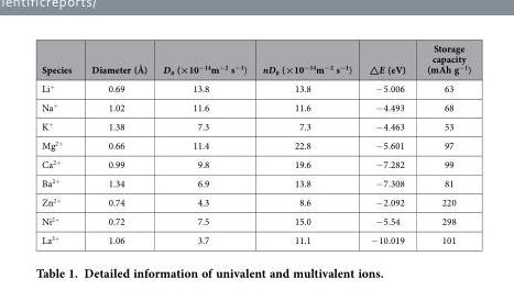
<table><thead><tr><td>Species</td><td>Diameter (Å)</td><td>D<sub>0</sub> (×10<sup>−14</sup>m<sup>−2</sup> s<sup>−1</sup>)</td><td>nD<sub>0</sub> (×10<sup>−14</sup>m<sup>−2</sup> s<sup>−1</sup>)</td><td>△E (eV)</td><td>Storage capacity (mAh g<sup>−1</sup>)</td></tr></thead><tbody><tr><td>Li<sup>+</sup></td><td>0.69</td><td>13.8</td><td>13.8</td><td>− 5.006</td><td>63</td></tr><tr><td>Na<sup>+</sup></td><td>1.02</td><td>11.6</td><td>11.6</td><td>− 4.493</td><td>68</td></tr><tr><td>K<sup>+</sup></td><td>1.38</td><td>7.3</td><td>7.3</td><td>− 4.463</td><td>53</td></tr><tr><td>Mg<sup>2+</sup></td><td>0.66</td><td>11.4</td><td>22.8</td><td>− 5.601</td><td>97</td></tr><tr><td>Ca<sup>2+</sup></td><td>0.99</td><td>9.8</td><td>19.6</td><td>− 7.282</td><td>99</td></tr><tr><td>Ba<sup>2+</sup></td><td>1.34</td><td>6.9</td><td>13.8</td><td>− 7.308</td><td>81</td></tr><tr><td>Zn<sup>2+</sup></td><td>0.74</td><td>4.3</td><td>8.6</td><td>− 2.092</td><td>220</td></tr><tr><td>Ni<sup>2+</sup></td><td>0.72</td><td>7.5</td><td>15.0</td><td>− 5.54</td><td>298</td></tr><tr><td>La<sup>3+</sup></td><td>1.06</td><td>3.7</td><td>11.1</td><td>− 10.019</td><td>101</td></tr></tbody></table>